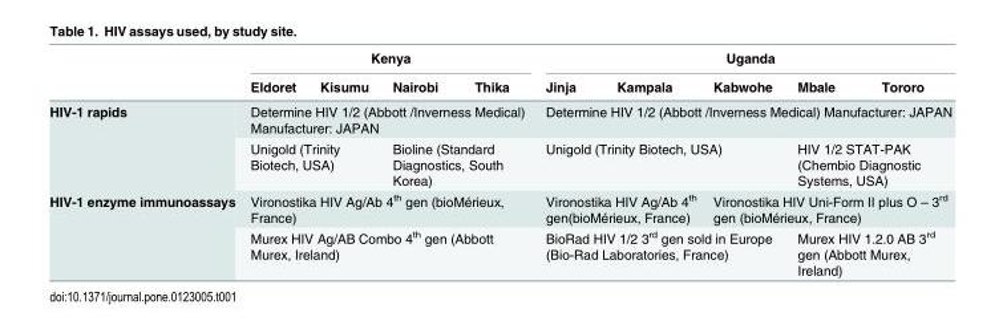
<table><thead><tr><td rowspan="2"></td><td colspan="4">Kenya</td><td colspan="5">Uganda</td></tr><tr><td>Eldoret</td><td>Kisumu</td><td>Nairobi</td><td>Thika</td><td>Jinja</td><td>Kampala</td><td>Kabwohe</td><td>Mbale</td><td>Tororo</td></tr></thead><tbody><tr><td rowspan="2">HIV-1 rapids</td><td colspan="4">Determine HIV 1/2 (Abbott /Inverness Medical) Manufacturer: JAPAN</td><td colspan="5">Determine HIV 1/2 (Abbott /Inverness Medical) Manufacturer: JAPAN</td></tr><tr><td colspan="2">Unigold (Trinity Biotech, USA)</td><td colspan="2">Bioline (Standard Diagnostics, South Korea)</td><td colspan="3">Unigold (Trinity Biotech, USA)</td><td colspan="2">HIV 1/2 STAT-PAK (Chembio Diagnostic Systems, USA)</td></tr><tr><td rowspan="2">HIV-1 enzyme immunoassays</td><td colspan="4">Vironostika HIV Ag/Ab 4<sup>th</sup> gen (bioMérieux, France)</td><td colspan="2">Vironostika HIV Ag/Ab 4<sup>th</sup> gen(bioMérieux, France)</td><td colspan="3">Vironostika HIV Uni-Form II plus O – 3<sup>rd</sup> gen (bioMérieux, France)</td></tr><tr><td colspan="4">Murex HIV Ag/AB Combo 4<sup>th</sup> gen (Abbott Murex, Ireland)</td><td colspan="3">BioRad HIV 1/2 3<sup>rd</sup> gen sold in Europe (Bio-Rad Laboratories, France)</td><td colspan="2">Murex HIV 1.2.0 AB 3<sup>rd</sup> gen (Abbott Murex, Ireland)</td></tr></tbody></table>